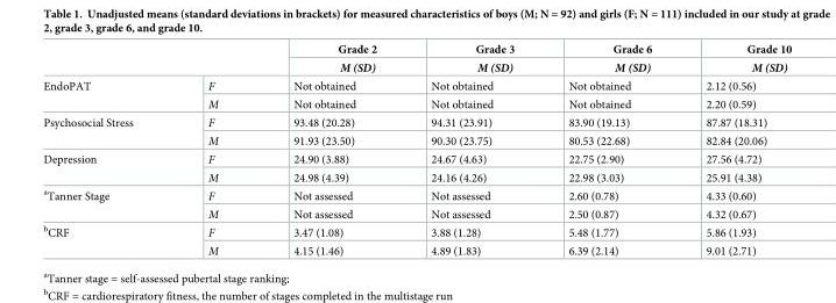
<table><thead><tr><td rowspan="2"></td><td rowspan="2"></td><td rowspan="2">Grade 2 M (SD)</td><td rowspan="2">Grade 3 M (SD)</td><td rowspan="2">Grade 6 M (SD)</td><td rowspan="2">Grade 10 M (SD)</td></tr><tr></tr></thead><tbody><tr><td rowspan="2">EndoPAT</td><td>F</td><td>Not obtained</td><td>Not obtained</td><td>Not obtained</td><td>2.12 (0.56)</td></tr><tr><td>M</td><td>Not obtained</td><td>Not obtained</td><td>Not obtained</td><td>2.20 (0.59)</td></tr><tr><td rowspan="2">Psychosocial Stress</td><td>F</td><td>93.48 (20.28)</td><td>94.31 (23.91)</td><td>83.90 (19.13)</td><td>87.87 (18.31)</td></tr><tr><td>M</td><td>91.93 (23.50)</td><td>90.30 (23.75)</td><td>80.53 (22.68)</td><td>82.84 (20.06)</td></tr><tr><td rowspan="2">Depression</td><td>F</td><td>24.90 (3.88)</td><td>24.67 (4.63)</td><td>22.75 (2.90)</td><td>27.56 (4.72)</td></tr><tr><td>M</td><td>24.98 (4.39)</td><td>24.16 (4.26)</td><td>22.98 (3.03)</td><td>25.91 (4.38)</td></tr><tr><td rowspan="2"><sup>a</sup>Tanner Stage</td><td>F</td><td>Not assessed</td><td>Not assessed</td><td>2.60 (0.78)</td><td>4.33 (0.60)</td></tr><tr><td>M</td><td>Not assessed</td><td>Not assessed</td><td>2.50 (0.87)</td><td>4.32 (0.67)</td></tr><tr><td rowspan="2"><sup>b</sup>CRF</td><td>F</td><td>3.47 (1.08)</td><td>3.88 (1.28)</td><td>5.48 (1.77)</td><td>5.86 (1.93)</td></tr><tr><td>M</td><td>4.15 (1.46)</td><td>4.89 (1.83)</td><td>6.39 (2.14)</td><td>9.01 (2.71)</td></tr></tbody></table>